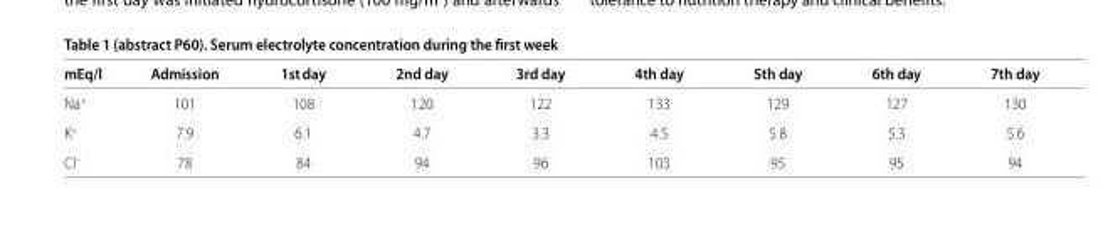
<table><thead><tr><td>mEq/l</td><td>Admission</td><td>1st day</td><td>2nd day</td><td>3rd day</td><td>4th day</td><td>5th day</td><td>6th day</td><td>7th day</td></tr></thead><tbody><tr><td>Na<sup>+</sup></td><td>101</td><td>108</td><td>120</td><td>122</td><td>133</td><td>129</td><td>127</td><td>130</td></tr><tr><td>K<sup>+</sup></td><td>7.9</td><td>6.1</td><td>4.7</td><td>3.3</td><td>4.5</td><td>5.8</td><td>5.3</td><td>5.6</td></tr><tr><td>Cl<sup>–</sup></td><td>78</td><td>84</td><td>94</td><td>96</td><td>103</td><td>95</td><td>95</td><td>94</td></tr></tbody></table>